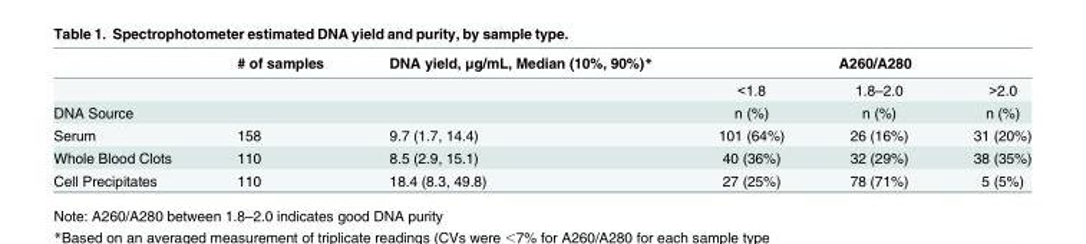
<table><thead><tr><td rowspan="2"></td><td rowspan="2"># of samples</td><td rowspan="2">DNA yield, μg/mL, Median (10%, 90%)*</td><td colspan="3">A260/A280</td></tr><tr><td>&lt;1.8</td><td>1.8–2.0</td><td>&gt;2.0</td></tr></thead><tbody><tr><td>DNA Source</td><td></td><td></td><td>n (%)</td><td>n (%)</td><td>n (%)</td></tr><tr><td>Serum</td><td>158</td><td>9.7 (1.7, 14.4)</td><td>101 (64%)</td><td>26 (16%)</td><td>31 (20%)</td></tr><tr><td>Whole Blood Clots</td><td>110</td><td>8.5 (2.9, 15.1)</td><td>40 (36%)</td><td>32 (29%)</td><td>38 (35%)</td></tr><tr><td>Cell Precipitates</td><td>110</td><td>18.4 (8.3, 49.8)</td><td>27 (25%)</td><td>78 (71%)</td><td>5 (5%)</td></tr></tbody></table>